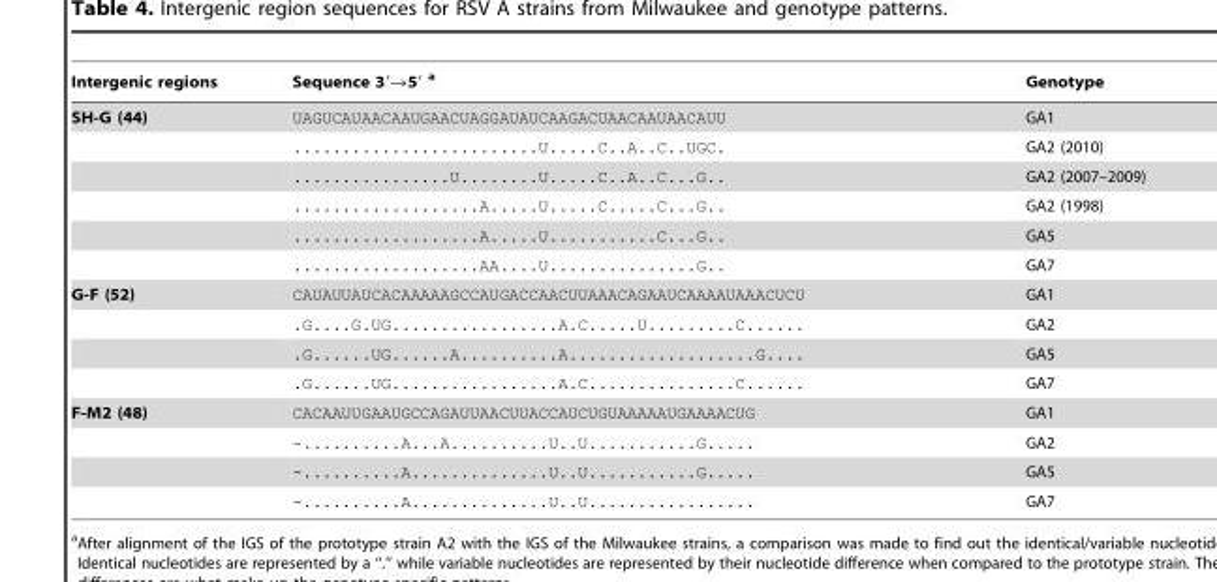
<table><thead><tr><td>Intergenic regions</td><td>Sequence 3′→5′ a</td><td>Genotype</td></tr></thead><tbody><tr><td rowspan="6">SH-G (44)</td><td>UAGUCAUAACAAUGAACUAGGAUAUCAAGACUAACAAUAACAUU</td><td>GA1</td></tr><tr><td>.........................U.....C..A..C..UGC.</td><td>GA2 (2010)</td></tr><tr><td>................U........U.....C..A..C...G..</td><td>GA2 (2007–2009)</td></tr><tr><td>...................A.....U.....C.....C...G..</td><td>GA2 (1998)</td></tr><tr><td>...................A.....U...........C...G..</td><td>GA5</td></tr><tr><td>...................AA....U...............G..</td><td>GA7</td></tr><tr><td rowspan="4">G-F (52)</td><td>CAUAUUAUCACAAAAAGCCAUGACCAACUUAAACAGAAUCAAAAUAAACUCU</td><td>GA1</td></tr><tr><td>.G....G.UG.................A.C.....U.........C......</td><td>GA2</td></tr><tr><td>.G......UG......A..........A...................G....</td><td>GA5</td></tr><tr><td>.G......UG.................A.C...............C......</td><td>GA7</td></tr><tr><td rowspan="4">F-M2 (48)</td><td>CACAAUUGAAUGCCAGAUUAACUUACCAUCUGUAAAAAUGAAAACUG</td><td>GA1</td></tr><tr><td>-..........A...A..........U..U...........G.....</td><td>GA2</td></tr><tr><td>-..........A..............U..U...........G.....</td><td>GA5</td></tr><tr><td>-..........A..............U..U.................</td><td>GA7</td></tr></tbody></table>